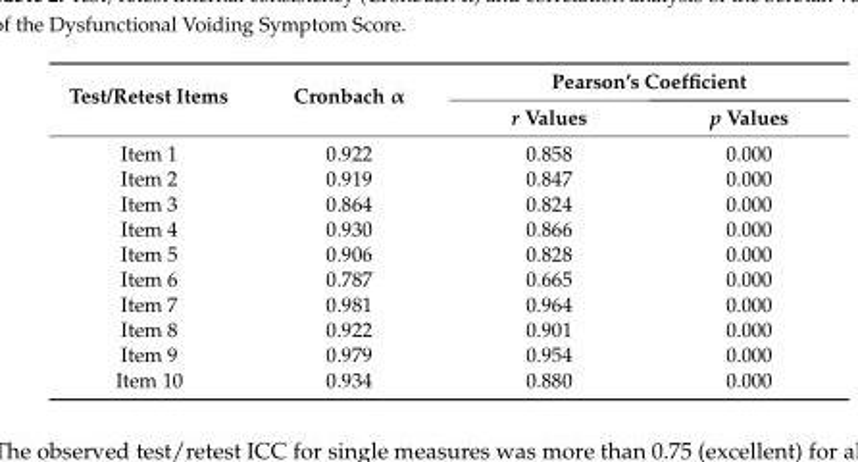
<table><thead><tr><td rowspan="2">Test/Retest Items</td><td rowspan="2">Cronbach α</td><td colspan="2">Pearson’s Coefficient</td></tr><tr><td>r Values</td><td>p Values</td></tr></thead><tbody><tr><td>Item 1</td><td>0.922</td><td>0.858</td><td>0.000</td></tr><tr><td>Item 2</td><td>0.919</td><td>0.847</td><td>0.000</td></tr><tr><td>Item 3</td><td>0.864</td><td>0.824</td><td>0.000</td></tr><tr><td>Item 4</td><td>0.930</td><td>0.866</td><td>0.000</td></tr><tr><td>Item 5</td><td>0.906</td><td>0.828</td><td>0.000</td></tr><tr><td>Item 6</td><td>0.787</td><td>0.665</td><td>0.000</td></tr><tr><td>Item 7</td><td>0.981</td><td>0.964</td><td>0.000</td></tr><tr><td>Item 8</td><td>0.922</td><td>0.901</td><td>0.000</td></tr><tr><td>Item 9</td><td>0.979</td><td>0.954</td><td>0.000</td></tr><tr><td>Item 10</td><td>0.934</td><td>0.880</td><td>0.000</td></tr></tbody></table>